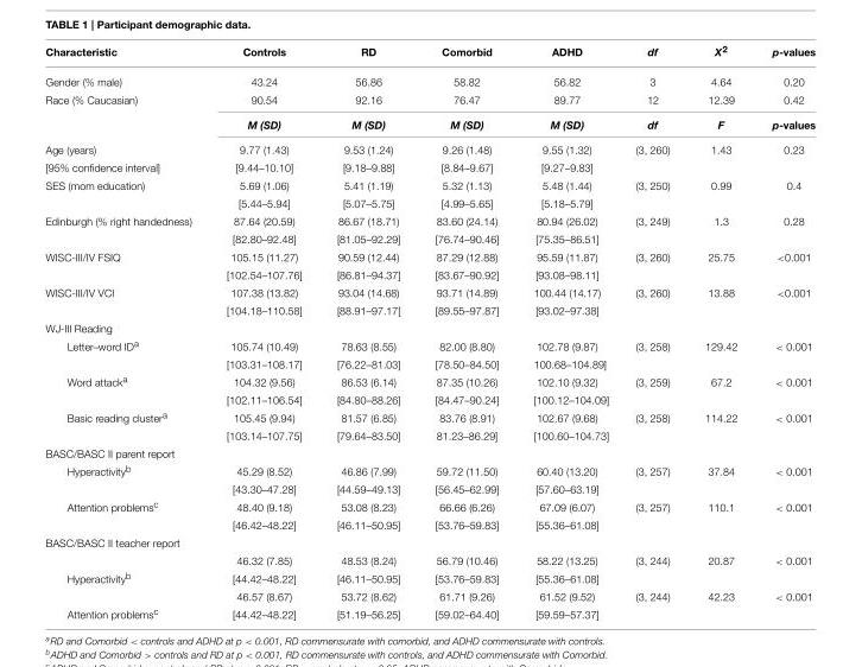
<table><thead><tr><td>Characteristic</td><td>Controls</td><td>RD</td><td>Comorbid</td><td>ADHD</td><td>df</td><td>X<sup>2</sup></td><td>p-values</td></tr></thead><tbody><tr><td>Gender (% male)</td><td>43.24</td><td>56.86</td><td>58.82</td><td>56.82</td><td>3</td><td>4.64</td><td>0.20</td></tr><tr><td rowspan="2">Race (% Caucasian)</td><td>90.54</td><td>92.16</td><td>76.47</td><td>89.77</td><td>12</td><td>12.39</td><td>0.42</td></tr><tr><td>M (SD)</td><td>M (SD)</td><td>M (SD)</td><td>M (SD)</td><td>df</td><td>F</td><td>p-values</td></tr><tr><td>Age (years)</td><td>9.77 (1.43)</td><td>9.53 (1.24)</td><td>9.26 (1.48)</td><td>9.55 (1.32)</td><td>(3, 260)</td><td>1.43</td><td>0.23</td></tr><tr><td>[95% confidence interval]</td><td>[9.44–10.10]</td><td>[9.18–9.88]</td><td>[8.84–9.67]</td><td>[9.27–9.83]</td><td></td><td></td><td></td></tr><tr><td rowspan="2">SES (mom education)</td><td>5.69 (1.06)</td><td>5.41 (1.19)</td><td>5.32 (1.13)</td><td>5.48 (1.44)</td><td>(3, 250)</td><td>0.99</td><td>0.4</td></tr><tr><td>[5.44–5.94]</td><td>[5.07–5.75]</td><td>[4.99–5.65]</td><td>[5.18–5.79]</td><td></td><td></td><td></td></tr><tr><td rowspan="2">Edinburgh (% right handedness)</td><td>87.64 (20.59)</td><td>86.67 (18.71)</td><td>83.60 (24.14)</td><td>80.94 (26.02)</td><td>(3, 249)</td><td>1.3</td><td>0.28</td></tr><tr><td>[82.80–92.48]</td><td>[81.05–92.29]</td><td>[76.74–90.46]</td><td>[75.35–86.51]</td><td></td><td></td><td></td></tr><tr><td rowspan="2">WISC-III/IV FSIQ</td><td>105.15 (11.27)</td><td>90.59 (12.44)</td><td>87.29 (12.88)</td><td>95.59 (11.87)</td><td>(3, 260)</td><td>25.75</td><td>&lt;0.001</td></tr><tr><td>[102.54–107.76]</td><td>[86.81–94.37]</td><td>[83.67–90.92]</td><td>[93.08–98.11]</td><td></td><td></td><td></td></tr><tr><td rowspan="2">WISC-III/IV VCI</td><td>107.38 (13.82)</td><td>93.04 (14.68)</td><td>93.71 (14.89)</td><td>100.44 (14.17)</td><td>(3, 260)</td><td>13.88</td><td>&lt;0.001</td></tr><tr><td>[104.18–110.58]</td><td>[88.91–97.17[</td><td>[89.55–97.87]</td><td>[93.02–97.38]</td><td></td><td></td><td></td></tr><tr><td colspan="8">WJ-III Reading</td></tr><tr><td rowspan="2">Letter–word ID<sup>a</sup></td><td>105.74 (10.49)</td><td>78.63 (8.55)</td><td>82.00 (8.80)</td><td>102.78 (9.87)</td><td>(3, 258)</td><td>129.42</td><td>&lt; 0.001</td></tr><tr><td>[103.31–108.17]</td><td>[76.22–81.03]</td><td>[78.50–84.50]</td><td colspan="2">100.68–104.89]</td><td></td><td></td></tr><tr><td rowspan="2">Word attack<sup>a</sup></td><td>104.32 (9.56)</td><td>86.53 (6.14)</td><td>87.35 (10.26)</td><td>102.10 (9.32)</td><td>(3, 259)</td><td>67.2</td><td>&lt; 0.001</td></tr><tr><td>[102.11–106.54]</td><td>[84.80–88.26]</td><td>[84.47–90.24]</td><td colspan="2">[100.12–104.09]</td><td></td><td></td></tr><tr><td rowspan="2">Basic reading cluster<sup>a</sup></td><td>105.45 (9.94)</td><td>81.57 (6.85)</td><td>83.76 (8.91)</td><td>102.67 (9.68)</td><td>(3, 258)</td><td>114.22</td><td>&lt; 0.001</td></tr><tr><td>[103.14–107.75]</td><td>[79.64–83.50]</td><td>81.23–86.29]</td><td colspan="2">[100.60–104.73]</td><td></td><td></td></tr><tr><td colspan="8">BASC/BASC II parent report</td></tr><tr><td rowspan="2">Hyperactivity<sup>b</sup></td><td>45.29 (8.52)</td><td>46.86 (7.99)</td><td>59.72 (11.50)</td><td>60.40 (13.20)</td><td>(3, 257)</td><td>37.84</td><td>&lt; 0.001</td></tr><tr><td>[43.30–47.28]</td><td>[44.59–49.13]</td><td>[56.45–62.99]</td><td>[57.60–63.19]</td><td></td><td></td><td></td></tr><tr><td rowspan="2">Attention problems<sup>c</sup></td><td>48.40 (9.18)</td><td>53.08 (8.23)</td><td>66.66 (6.26)</td><td>67.09 (6.07)</td><td>(3, 257)</td><td>110.1</td><td>&lt; 0.001</td></tr><tr><td>[46.42–48.22]</td><td>[46.11–50.95]</td><td>[53.76–59.83]</td><td>[55.36–61.08]</td><td></td><td></td><td></td></tr><tr><td colspan="8">BASC/BASC II teacher report</td></tr><tr><td></td><td>46.32 (7.85)</td><td>48.53 (8.24)</td><td>56.79 (10.46)</td><td>58.22 (13.25)</td><td>(3, 244)</td><td>20.87</td><td>&lt; 0.001</td></tr><tr><td rowspan="2">Hyperactivity<sup>b</sup></td><td>[44.42–48.22]</td><td>[46.11–50.95]</td><td>[53.76–59.83]</td><td>[55.36–61.08]</td><td></td><td></td><td></td></tr><tr><td>46.57 (8.67)</td><td>53.72 (8.62)</td><td>61.71 (9.26)</td><td>61.52 (9.52)</td><td>(3, 244)</td><td>42.23</td><td>&lt; 0.001</td></tr><tr><td>Attention problems<sup>c</sup></td><td>[44.42–48.22]</td><td>[51.19–56.25]</td><td>[59.02–64.40]</td><td>[59.59–57.37]</td><td></td><td></td><td></td></tr></tbody></table>